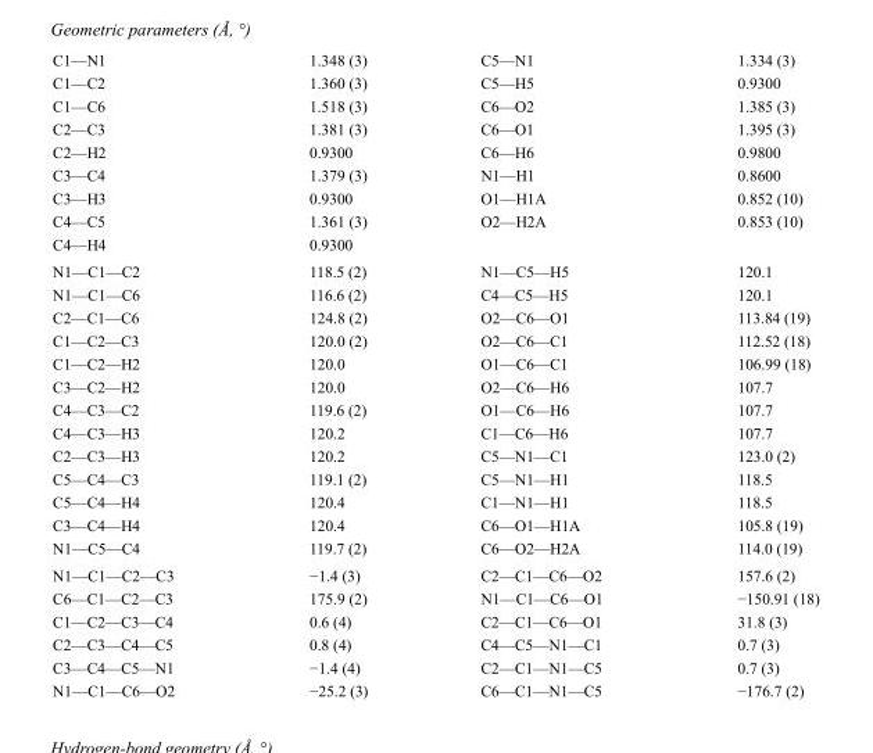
<table><tbody><tr><td>C1—N1</td><td>1.348 (3)</td><td>C5—N1</td><td>1.334 (3)</td></tr><tr><td>C1—C2</td><td>1.360 (3)</td><td>C5—H5</td><td>0.9300</td></tr><tr><td>C1—C6</td><td>1.518 (3)</td><td>C6—O2</td><td>1.385 (3)</td></tr><tr><td>C2—C3</td><td>1.381 (3)</td><td>C6—O1</td><td>1.395 (3)</td></tr><tr><td>C2—H2</td><td>0.9300</td><td>C6—H6</td><td>0.9800</td></tr><tr><td>C3—C4</td><td>1.379 (3)</td><td>N1—H1</td><td>0.8600</td></tr><tr><td>C3—H3</td><td>0.9300</td><td>O1—H1A</td><td>0.852 (10)</td></tr><tr><td>C4—C5</td><td>1.361 (3)</td><td>O2—H2A</td><td>0.853 (10)</td></tr><tr><td>C4—H4</td><td>0.9300</td><td></td><td></td></tr><tr><td>N1—C1—C2</td><td>118.5 (2)</td><td>N1—C5—H5</td><td>120.1</td></tr><tr><td>N1—C1—C6</td><td>116.6 (2)</td><td>C4—C5—H5</td><td>120.1</td></tr><tr><td>C2—C1—C6</td><td>124.8 (2)</td><td>O2—C6—O1</td><td>113.84 (19)</td></tr><tr><td>C1—C2—C3</td><td>120.0 (2)</td><td>O2—C6—C1</td><td>112.52 (18)</td></tr><tr><td>C1—C2—H2</td><td>120.0</td><td>O1—C6—C1</td><td>106.99 (18)</td></tr><tr><td>C3—C2—H2</td><td>120.0</td><td>O2—C6—H6</td><td>107.7</td></tr><tr><td>C4—C3—C2</td><td>119.6 (2)</td><td>O1—C6—H6</td><td>107.7</td></tr><tr><td>C4—C3—H3</td><td>120.2</td><td>C1—C6—H6</td><td>107.7</td></tr><tr><td>C2—C3—H3</td><td>120.2</td><td>C5—N1—C1</td><td>123.0 (2)</td></tr><tr><td>C5—C4—C3</td><td>119.1 (2)</td><td>C5—N1—H1</td><td>118.5</td></tr><tr><td>C5—C4—H4</td><td>120.4</td><td>C1—N1—H1</td><td>118.5</td></tr><tr><td>C3—C4—H4</td><td>120.4</td><td>C6—O1—H1A</td><td>105.8 (19)</td></tr><tr><td>N1—C5—C4</td><td>119.7 (2)</td><td>C6—O2—H2A</td><td>114.0 (19)</td></tr><tr><td>N1—C1—C2—C3</td><td>−1.4 (3)</td><td>C2—C1—C6—O2</td><td>157.6 (2)</td></tr><tr><td>C6—C1—C2—C3</td><td>175.9 (2)</td><td>N1—C1—C6—O1</td><td>−150.91 (18)</td></tr><tr><td>C1—C2—C3—C4</td><td>0.6 (4)</td><td>C2—C1—C6—O1</td><td>31.8 (3)</td></tr><tr><td>C2—C3—C4—C5</td><td>0.8 (4)</td><td>C4—C5—N1—C1</td><td>0.7 (3)</td></tr><tr><td>C3—C4—C5—N1</td><td>−1.4 (4)</td><td>C2—C1—N1—C5</td><td>0.7 (3)</td></tr><tr><td>N1—C1—C6—O2</td><td>−25.2 (3)</td><td>C6—C1—N1—C5</td><td>−176.7 (2)</td></tr></tbody></table>